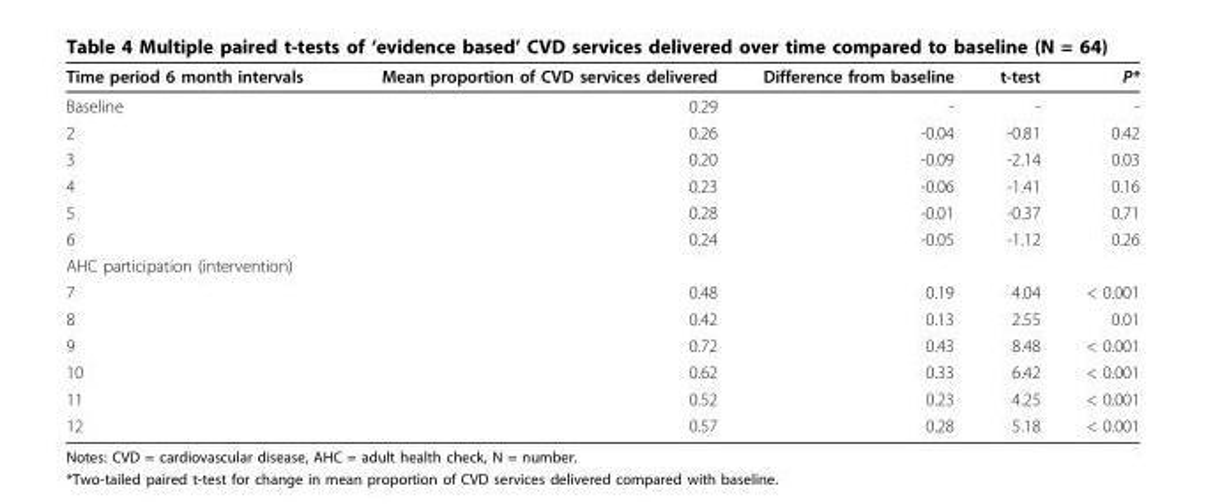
<table><thead><tr><td>Time period 6 month intervals</td><td>Mean proportion of CVD services delivered</td><td>Difference from baseline</td><td>t-test</td><td>P*</td></tr></thead><tbody><tr><td>Baseline</td><td>0.29</td><td>-</td><td>-</td><td>-</td></tr><tr><td>2</td><td>0.26</td><td>-0.04</td><td>-0.81</td><td>0.42</td></tr><tr><td>3</td><td>0.20</td><td>-0.09</td><td>-2.14</td><td>0.03</td></tr><tr><td>4</td><td>0.23</td><td>-0.06</td><td>-1.41</td><td>0.16</td></tr><tr><td>5</td><td>0.28</td><td>-0.01</td><td>-0.37</td><td>0.71</td></tr><tr><td>6</td><td>0.24</td><td>-0.05</td><td>-1.12</td><td>0.26</td></tr><tr><td colspan="5">AHC participation (intervention)</td></tr><tr><td>7</td><td>0.48</td><td>0.19</td><td>4.04</td><td>&lt; 0.001</td></tr><tr><td>8</td><td>0.42</td><td>0.13</td><td>2.55</td><td>0.01</td></tr><tr><td>9</td><td>0.72</td><td>0.43</td><td>8.48</td><td>&lt; 0.001</td></tr><tr><td>10</td><td>0.62</td><td>0.33</td><td>6.42</td><td>&lt; 0.001</td></tr><tr><td>11</td><td>0.52</td><td>0.23</td><td>4.25</td><td>&lt; 0.001</td></tr><tr><td>12</td><td>0.57</td><td>0.28</td><td>5.18</td><td>&lt; 0.001</td></tr></tbody></table>